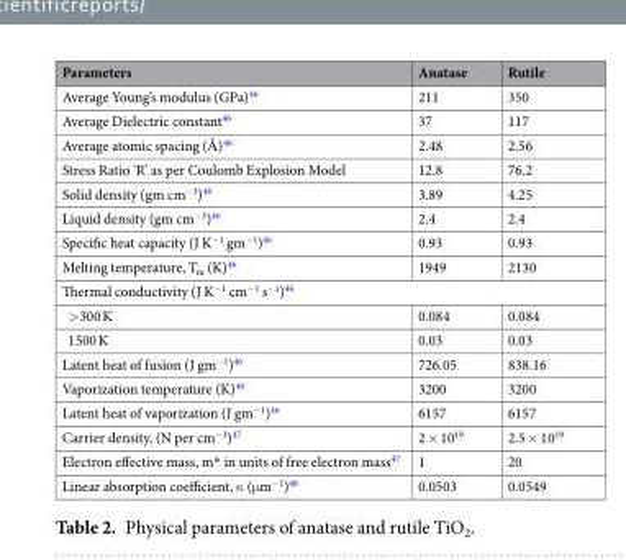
<table><thead><tr><td>Parameters</td><td>Anatase</td><td>Rutile</td></tr></thead><tbody><tr><td>Average Young’s modulus (GPa)<sup>46</sup></td><td>211</td><td>350</td></tr><tr><td>Average Dielectric constant<sup>46</sup></td><td>37</td><td>117</td></tr><tr><td>Average atomic spacing (Å)<sup>46</sup></td><td>2.48</td><td>2.56</td></tr><tr><td>Stress Ratio ‘R’ as per Coulomb Explosion Model</td><td>12.8</td><td>76.2</td></tr><tr><td>Solid density (gm cm<sup>−3</sup>)<sup>46</sup></td><td>3.89</td><td>4.25</td></tr><tr><td>Liquid density (gm cm<sup>−3</sup>)<sup>46</sup></td><td>2.4</td><td>2.4</td></tr><tr><td>Specific heat capacity (J K<sup>−1</sup> gm<sup>−1</sup>)<sup>46</sup></td><td>0.93</td><td>0.93</td></tr><tr><td>Melting temperature, T<sub>m</sub> (K)<sup>46</sup></td><td>1949</td><td>2130</td></tr><tr><td colspan="3">Thermal conductivity (J K<sup>−1</sup> cm<sup>−1</sup> s<sup>−1</sup>)<sup>46</sup></td></tr><tr><td>&gt;300 K</td><td>0.084</td><td>0.084</td></tr><tr><td>1500 K</td><td>0.03</td><td>0.03</td></tr><tr><td>Latent heat of fusion (J gm<sup>−1</sup>)<sup>46</sup></td><td>726.05</td><td>838.16</td></tr><tr><td>Vaporization temperature (K)<sup>46</sup></td><td>3200</td><td>3200</td></tr><tr><td>Latent heat of vaporization (J gm<sup>−1</sup>)<sup>46</sup></td><td>6157</td><td>6157</td></tr><tr><td>Carrier density, (N per cm<sup>−3</sup>)<sup>47</sup></td><td>2 × 10<sup>19</sup></td><td>2.5 × 10<sup>19</sup></td></tr><tr><td>Electron effective mass, m* in units of free electron mass<sup>47</sup></td><td>1</td><td>20</td></tr><tr><td>Linear absorption coefficient, κ (μm<sup>−1</sup>)<sup>48</sup></td><td>0.0503</td><td>0.0549</td></tr></tbody></table>